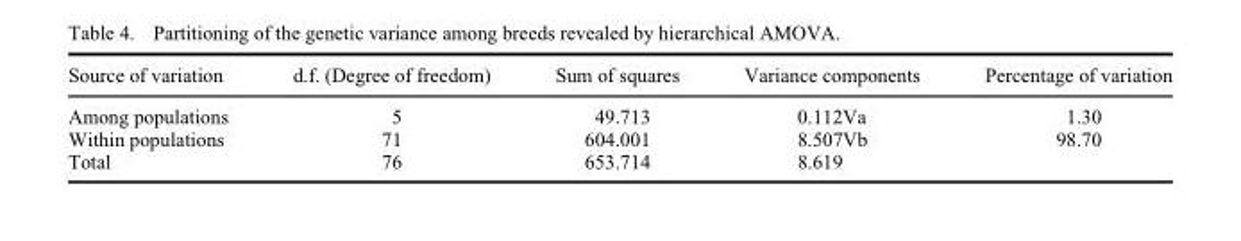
<table><thead><tr><td>Source of variation</td><td>d.f. (Degree of freedom)</td><td>Sum of squares</td><td>Variance components</td><td>Percentage of variation</td></tr></thead><tbody><tr><td>Among populations</td><td>5</td><td>49.713</td><td>0.112Va</td><td>1.30</td></tr><tr><td>Within populations</td><td>71</td><td>604.001</td><td>8.507Vb</td><td>98.70</td></tr><tr><td>Total</td><td>76</td><td>653.714</td><td>8.619</td><td></td></tr></tbody></table>